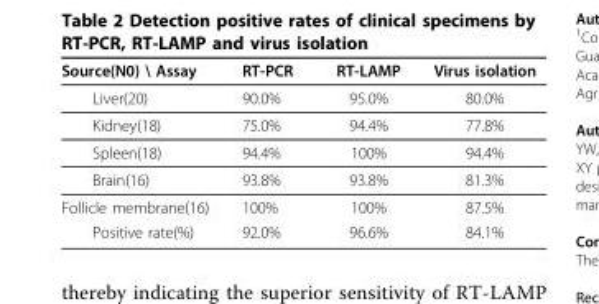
<table><thead><tr><td>Source(N0) \ Assay</td><td>RT-PCR</td><td>RT-LAMP</td><td>Virus isolation</td></tr></thead><tbody><tr><td>Liver(20)</td><td>90.0%</td><td>95.0%</td><td>80.0%</td></tr><tr><td>Kidney(18)</td><td>75.0%</td><td>94.4%</td><td>77.8%</td></tr><tr><td>Spleen(18)</td><td>94.4%</td><td>100%</td><td>94.4%</td></tr><tr><td>Brain(16)</td><td>93.8%</td><td>93.8%</td><td>81.3%</td></tr><tr><td>Follicle membrane(16)</td><td>100%</td><td>100%</td><td>87.5%</td></tr><tr><td>Positive rate(%)</td><td>92.0%</td><td>96.6%</td><td>84.1%</td></tr></tbody></table>